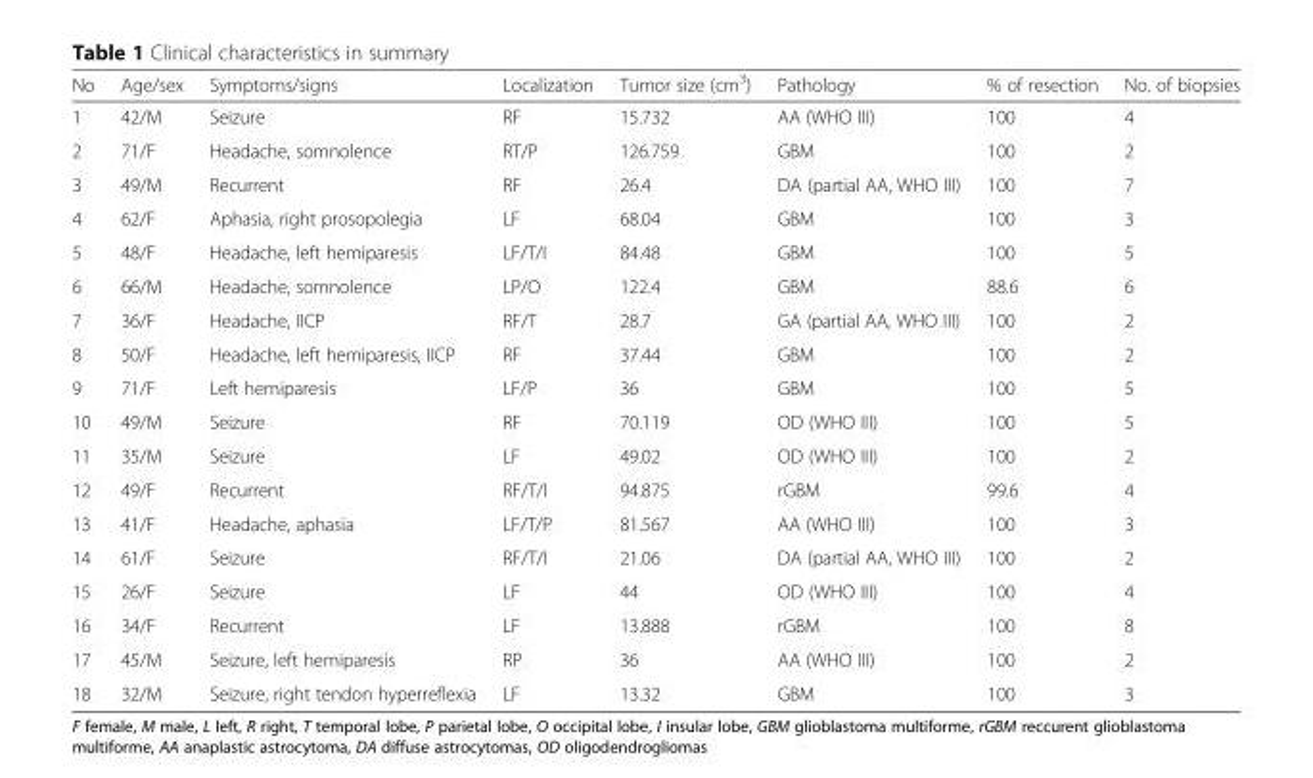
<table><thead><tr><td>No</td><td>Age/sex</td><td>Symptoms/signs</td><td>Localization</td><td>Tumor size (cm<sup>3</sup>)</td><td>Pathology</td><td>% of resection</td><td>No. of biopsies</td></tr></thead><tbody><tr><td>1</td><td>42/M</td><td>Seizure</td><td>RF</td><td>15.732</td><td>AA (WHO III)</td><td>100</td><td>4</td></tr><tr><td>2</td><td>71/F</td><td>Headache, somnolence</td><td>RT/P</td><td>126.759</td><td>GBM</td><td>100</td><td>2</td></tr><tr><td>3</td><td>49/M</td><td>Recurrent</td><td>RF</td><td>26.4</td><td>DA (partial AA, WHO III)</td><td>100</td><td>7</td></tr><tr><td>4</td><td>62/F</td><td>Aphasia, right prosopolegia</td><td>LF</td><td>68.04</td><td>GBM</td><td>100</td><td>3</td></tr><tr><td>5</td><td>48/F</td><td>Headache, left hemiparesis</td><td>LF/T/I</td><td>84.48</td><td>GBM</td><td>100</td><td>5</td></tr><tr><td>6</td><td>66/M</td><td>Headache, somnolence</td><td>LP/O</td><td>122.4</td><td>GBM</td><td>88.6</td><td>6</td></tr><tr><td>7</td><td>36/F</td><td>Headache, IICP</td><td>RF/T</td><td>28.7</td><td>GA (partial AA, WHO III)</td><td>100</td><td>2</td></tr><tr><td>8</td><td>50/F</td><td>Headache, left hemiparesis, IICP</td><td>RF</td><td>37.44</td><td>GBM</td><td>100</td><td>2</td></tr><tr><td>9</td><td>71/F</td><td>Left hemiparesis</td><td>LF/P</td><td>36</td><td>GBM</td><td>100</td><td>5</td></tr><tr><td>10</td><td>49/M</td><td>Seizure</td><td>RF</td><td>70.119</td><td>OD (WHO III)</td><td>100</td><td>5</td></tr><tr><td>11</td><td>35/M</td><td>Seizure</td><td>LF</td><td>49.02</td><td>OD (WHO III)</td><td>100</td><td>2</td></tr><tr><td>12</td><td>49/F</td><td>Recurrent</td><td>RF/T/I</td><td>94.875</td><td>rGBM</td><td>99.6</td><td>4</td></tr><tr><td>13</td><td>41/F</td><td>Headache, aphasia</td><td>LF/T/P</td><td>81.567</td><td>AA (WHO III)</td><td>100</td><td>3</td></tr><tr><td>14</td><td>61/F</td><td>Seizure</td><td>RF/T/I</td><td>21.06</td><td>DA (partial AA, WHO III)</td><td>100</td><td>2</td></tr><tr><td>15</td><td>26/F</td><td>Seizure</td><td>LF</td><td>44</td><td>OD (WHO III)</td><td>100</td><td>4</td></tr><tr><td>16</td><td>34/F</td><td>Recurrent</td><td>LF</td><td>13.888</td><td>rGBM</td><td>100</td><td>8</td></tr><tr><td>17</td><td>45/M</td><td>Seizure, left hemiparesis</td><td>RP</td><td>36</td><td>AA (WHO III)</td><td>100</td><td>2</td></tr><tr><td>18</td><td>32/M</td><td>Seizure, right tendon hyperreflexia</td><td>LF</td><td>13.32</td><td>GBM</td><td>100</td><td>3</td></tr></tbody></table>